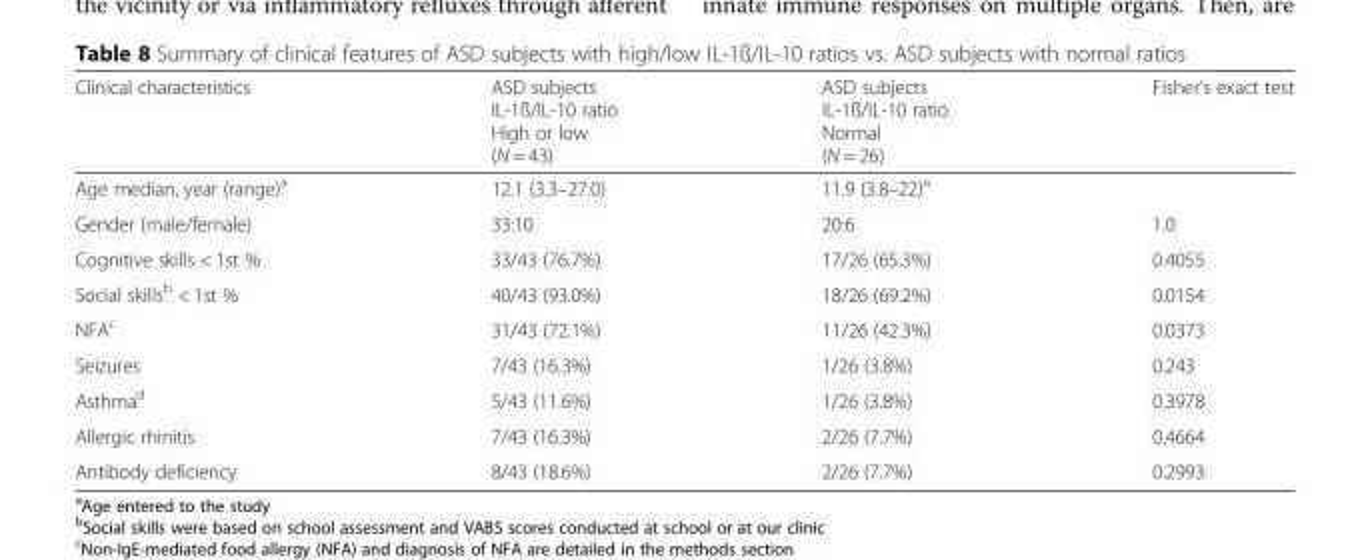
<table><thead><tr><td>Clinical characteristics</td><td>ASD subjects IL-1ß/IL-10 ratio High or low (N = 43)</td><td>ASD subjects IL-1ß/IL-10 ratio Normal (N = 26)</td><td>Fisher’s exact test</td></tr></thead><tbody><tr><td>Age median, year (range)<sup>a</sup></td><td>12.1 (3.3–27.0)</td><td>11.9 (3.8–22)<sup>a</sup></td><td></td></tr><tr><td>Gender (male/female)</td><td>33:10</td><td>20:6</td><td>1.0</td></tr><tr><td>Cognitive skills &lt; 1st %</td><td>33/43 (76.7%)</td><td>17/26 (65.3%)</td><td>0.4055</td></tr><tr><td>Social skills<sup>b</sup> &lt; 1st %</td><td>40/43 (93.0%)</td><td>18/26 (69.2%)</td><td>0.0154</td></tr><tr><td>NFA<sup>c</sup></td><td>31/43 (72.1%)</td><td>11/26 (42.3%)</td><td>0.0373</td></tr><tr><td>Seizures</td><td>7/43 (16.3%)</td><td>1/26 (3.8%)</td><td>0.243</td></tr><tr><td>Asthma<sup>d</sup></td><td>5/43 (11.6%)</td><td>1/26 (3.8%)</td><td>0.3978</td></tr><tr><td>Allergic rhinitis</td><td>7/43 (16.3%)</td><td>2/26 (7.7%)</td><td>0.4664</td></tr><tr><td>Antibody deficiency</td><td>8/43 (18.6%)</td><td>2/26 (7.7%)</td><td>0.2993</td></tr></tbody></table>